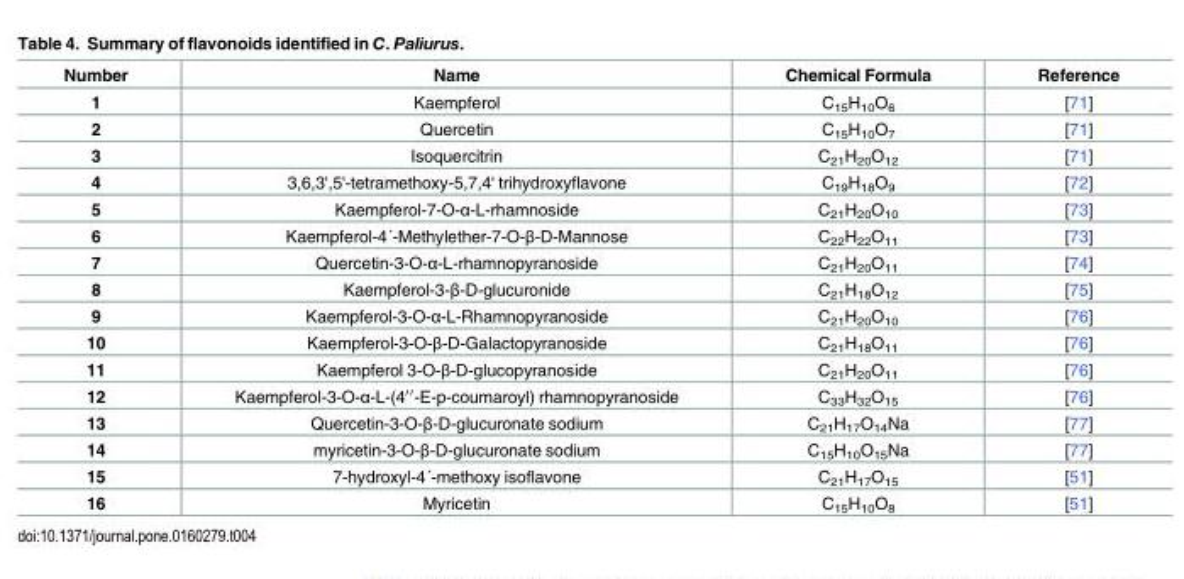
<table><thead><tr><td>Number</td><td>Name</td><td>Chemical Formula</td><td>Reference</td></tr></thead><tbody><tr><td>1</td><td>Kaempferol</td><td>C<sub>15</sub>H<sub>10</sub>O<sub>6</sub></td><td>[71]</td></tr><tr><td>2</td><td>Quercetin</td><td>C<sub>15</sub>H<sub>10</sub>O<sub>7</sub></td><td>[71]</td></tr><tr><td>3</td><td>Isoquercitrin</td><td>C<sub>21</sub>H<sub>20</sub>O<sub>12</sub></td><td>[71]</td></tr><tr><td>4</td><td>3,6,3&#x27;,5&#x27;-tetramethoxy-5,7,4&#x27; trihydroxyflavone</td><td>C<sub>19</sub>H<sub>18</sub>O<sub>9</sub></td><td>[72]</td></tr><tr><td>5</td><td>Kaempferol-7-O-α-L-rhamnoside</td><td>C<sub>21</sub>H<sub>20</sub>O<sub>10</sub></td><td>[73]</td></tr><tr><td>6</td><td>Kaempferol-4´-Methylether-7-O-β-D-Mannose</td><td>C<sub>22</sub>H<sub>22</sub>O<sub>11</sub></td><td>[73]</td></tr><tr><td>7</td><td>Quercetin-3-O-α-L-rhamnopyranoside</td><td>C<sub>21</sub>H<sub>20</sub>O<sub>11</sub></td><td>[74]</td></tr><tr><td>8</td><td>Kaempferol-3-β-D-glucuronide</td><td>C<sub>21</sub>H<sub>18</sub>O<sub>12</sub></td><td>[75]</td></tr><tr><td>9</td><td>Kaempferol-3-O-α-L-Rhamnopyranoside</td><td>C<sub>21</sub>H<sub>20</sub>O<sub>10</sub></td><td>[76]</td></tr><tr><td>10</td><td>Kaempferol-3-O-β-D-Galactopyranoside</td><td>C<sub>21</sub>H<sub>18</sub>O<sub>11</sub></td><td>[76]</td></tr><tr><td>11</td><td>Kaempferol 3-O-β-D-glucopyranoside</td><td>C<sub>21</sub>H<sub>20</sub>O<sub>11</sub></td><td>[76]</td></tr><tr><td>12</td><td>Kaempferol-3-O-α-L-(4′′-E-p-coumaroyl) rhamnopyranoside</td><td>C<sub>33</sub>H<sub>32</sub>O<sub>15</sub></td><td>[76]</td></tr><tr><td>13</td><td>Quercetin-3-O-β-D-glucuronate sodium</td><td>C<sub>21</sub>H<sub>17</sub>O<sub>14</sub>Na</td><td>[77]</td></tr><tr><td>14</td><td>myricetin-3-O-β-D-glucuronate sodium</td><td>C<sub>15</sub>H<sub>10</sub>O<sub>15</sub>Na</td><td>[77]</td></tr><tr><td>15</td><td>7-hydroxyl-4´-methoxy isoflavone</td><td>C<sub>21</sub>H<sub>17</sub>O<sub>15</sub></td><td>[51]</td></tr><tr><td>16</td><td>Myricetin</td><td>C<sub>15</sub>H<sub>10</sub>O<sub>8</sub></td><td>[51]</td></tr></tbody></table>